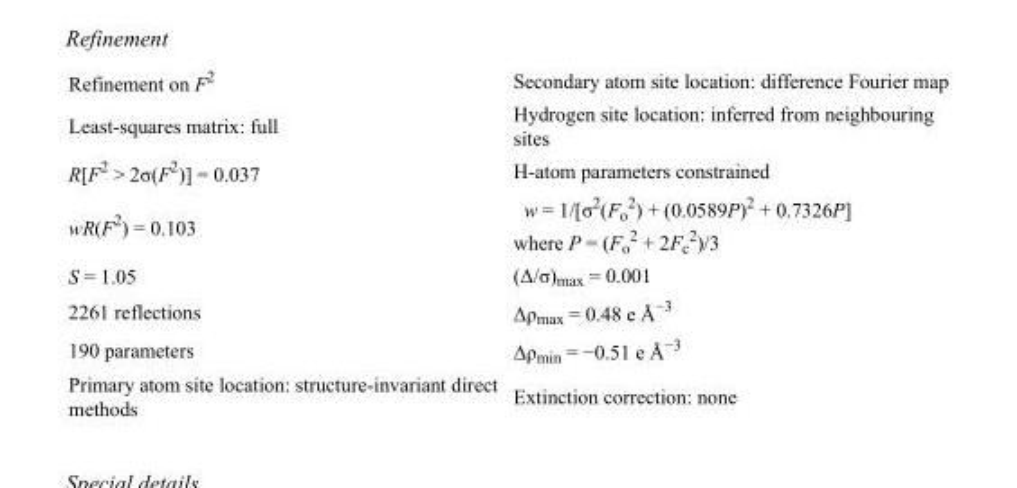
<table><tbody><tr><td>Refinement on F<sup>2</sup></td><td>Secondary atom site location: difference Fourier map</td></tr><tr><td>Least-squares matrix: full</td><td>Hydrogen site location: inferred from neighbouring sites</td></tr><tr><td>R[F<sup>2</sup> &gt; 2σ(F<sup>2</sup>)] = 0.037</td><td>H-atom parameters constrained</td></tr><tr><td>wR(F<sup>2</sup>) = 0.103</td><td>w = 1/[σ<sup>2</sup>(F<sub>o</sub> <sup>2</sup>) + (0.0589P)<sup>2</sup> + 0.7326P] where P = (F<sub>o</sub> <sup>2</sup> + 2F<sub>c</sub> <sup>2</sup>)/3</td></tr><tr><td>S = 1.05</td><td>(Δ/σ)<sub>max</sub> = 0.001</td></tr><tr><td>2261 reflections</td><td>Δρ<sub>max</sub> = 0.48 e Å<sup>−3</sup></td></tr><tr><td>190 parameters</td><td>Δρ<sub>min</sub> = −0.51 e Å<sup>−3</sup></td></tr><tr><td>Primary atom site location: structure-invariant direct methods</td><td>Extinction correction: none</td></tr></tbody></table>